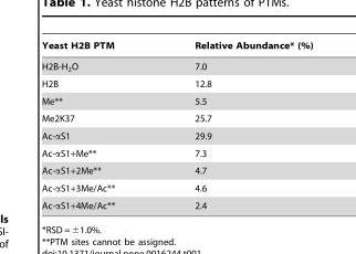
<table><thead><tr><td>Yeast H2B PTM</td><td>Relative Abundance* (%)</td></tr></thead><tbody><tr><td>H2B-H<sub>2</sub>O</td><td>7.0</td></tr><tr><td>H2B</td><td>12.8</td></tr><tr><td>Me**</td><td>5.5</td></tr><tr><td>Me2K37</td><td>25.7</td></tr><tr><td>Ac-αS1</td><td>29.9</td></tr><tr><td>Ac-αS1+Me**</td><td>7.3</td></tr><tr><td>Ac-αS1+2Me**</td><td>4.7</td></tr><tr><td>Ac-αS1+3Me/Ac**</td><td>4.6</td></tr><tr><td>Ac-αS1+4Me/Ac**</td><td>2.4</td></tr></tbody></table>